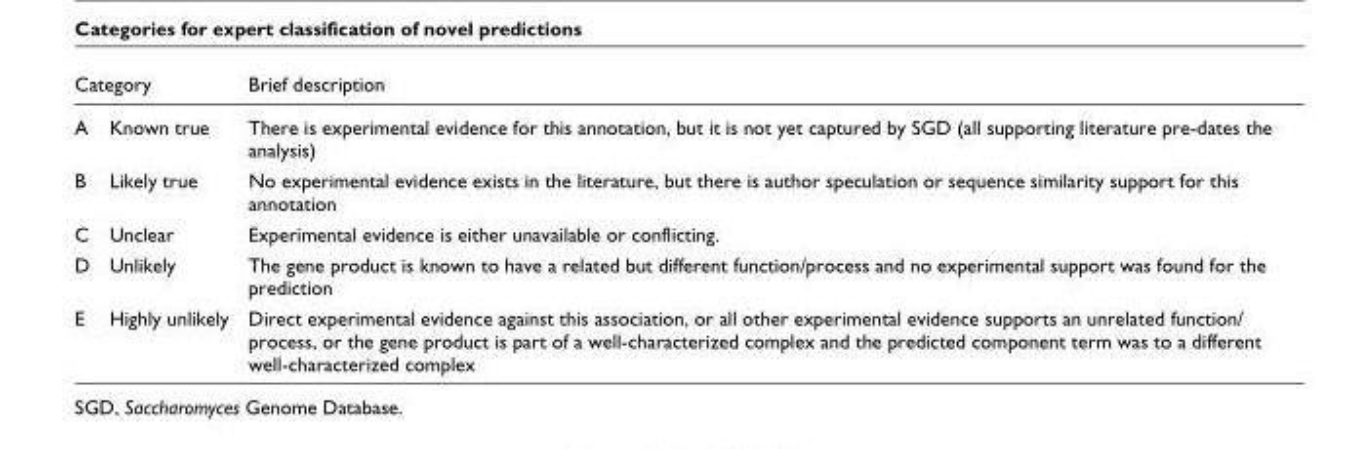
<table><thead><tr><td colspan="2">Category</td><td rowspan="2">Brief description There is experimental evidence for this annotation, but it is not yet captured by SGD (all supporting literature pre-dates the analysis)</td></tr><tr><td>A</td><td>Known true</td></tr></thead><tbody><tr><td>B</td><td>Likely true</td><td>No experimental evidence exists in the literature, but there is author speculation or sequence similarity support for this annotation</td></tr><tr><td>C</td><td>Unclear</td><td>Experimental evidence is either unavailable or conflicting.</td></tr><tr><td>D</td><td>Unlikely</td><td>The gene product is known to have a related but different function/process and no experimental support was found for the prediction</td></tr><tr><td>E</td><td>Highly unlikely</td><td>Direct experimental evidence against this association, or all other experimental evidence supports an unrelated function/ process, or the gene product is part of a well-characterized complex and the predicted component term was to a different well-characterized complex</td></tr></tbody></table>